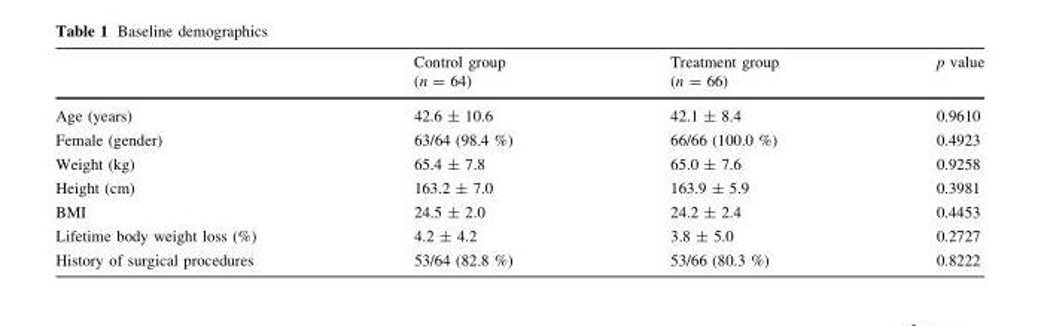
<table><thead><tr><td rowspan="2"></td><td rowspan="2">Control group (n = 64)</td><td rowspan="2">Treatment group (n = 66)</td><td rowspan="2">p value</td></tr><tr></tr></thead><tbody><tr><td>Age (years)</td><td>42.6 ± 10.6</td><td>42.1 ± 8.4</td><td>0.9610</td></tr><tr><td>Female (gender)</td><td>63/64 (98.4 %)</td><td>66/66 (100.0 %)</td><td>0.4923</td></tr><tr><td>Weight (kg)</td><td>65.4 ± 7.8</td><td>65.0 ± 7.6</td><td>0.9258</td></tr><tr><td>Height (cm)</td><td>163.2 ± 7.0</td><td>163.9 ± 5.9</td><td>0.3981</td></tr><tr><td>BMI</td><td>24.5 ± 2.0</td><td>24.2 ± 2.4</td><td>0.4453</td></tr><tr><td>Lifetime body weight loss (%)</td><td>4.2 ± 4.2</td><td>3.8 ± 5.0</td><td>0.2727</td></tr><tr><td>History of surgical procedures</td><td>53/64 (82.8 %)</td><td>53/66 (80.3 %)</td><td>0.8222</td></tr></tbody></table>